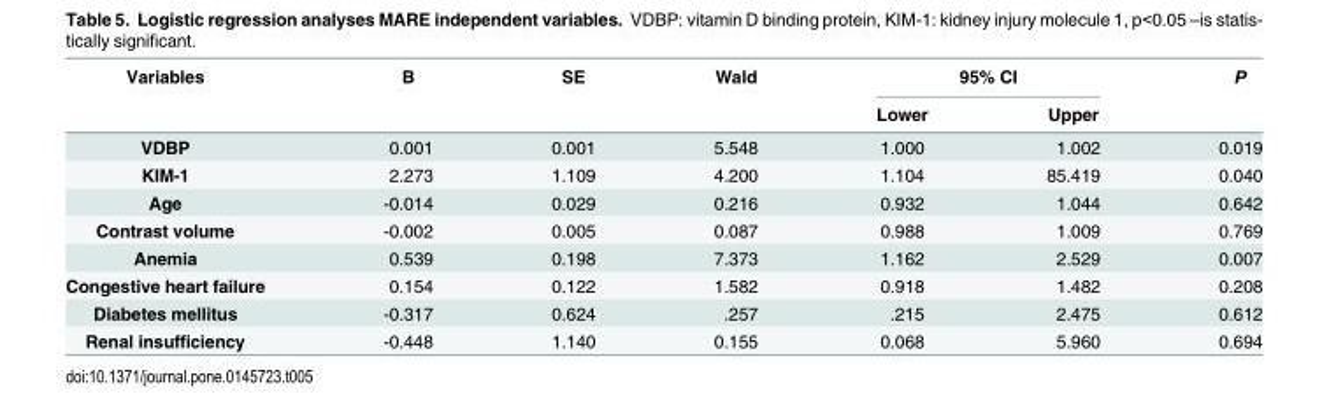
<table><thead><tr><td rowspan="2">Variables</td><td rowspan="2">B</td><td rowspan="2">SE</td><td rowspan="2">Wald</td><td colspan="2">95% CI</td><td rowspan="2">P</td></tr><tr><td>Lower</td><td>Upper</td></tr></thead><tbody><tr><td>VDBP</td><td>0.001</td><td>0.001</td><td>5.548</td><td>1.000</td><td>1.002</td><td>0.019</td></tr><tr><td>KIM-1</td><td>2.273</td><td>1.109</td><td>4.200</td><td>1.104</td><td>85.419</td><td>0.040</td></tr><tr><td>Age</td><td>-0.014</td><td>0.029</td><td>0.216</td><td>0.932</td><td>1.044</td><td>0.642</td></tr><tr><td>Contrast volume</td><td>-0.002</td><td>0.005</td><td>0.087</td><td>0.988</td><td>1.009</td><td>0.769</td></tr><tr><td>Anemia</td><td>0.539</td><td>0.198</td><td>7.373</td><td>1.162</td><td>2.529</td><td>0.007</td></tr><tr><td>Congestive heart failure</td><td>0.154</td><td>0.122</td><td>1.582</td><td>0.918</td><td>1.482</td><td>0.208</td></tr><tr><td>Diabetes mellitus</td><td>-0.317</td><td>0.624</td><td>.257</td><td>.215</td><td>2.475</td><td>0.612</td></tr><tr><td>Renal insufficiency</td><td>-0.448</td><td>1.140</td><td>0.155</td><td>0.068</td><td>5.960</td><td>0.694</td></tr></tbody></table>